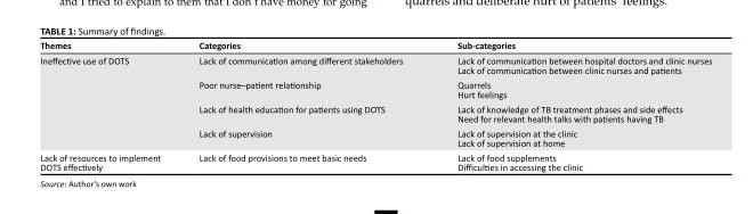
<table><thead><tr><td>Themes</td><td>Categories</td><td>Sub-categories</td></tr></thead><tbody><tr><td rowspan="4">Ineffective use of DOTS</td><td>Lack of communication among different stakeholders</td><td>Lack of communication between hospital doctors and clinic nurses Lack of communication between clinic nurses and patients</td></tr><tr><td>Poor nurse–patient relationship</td><td>Quarrels Hurt feelings</td></tr><tr><td>Lack of health education for patients using DOTS</td><td>Lack of knowledge of TB treatment phases and side effects Need for relevant health talks with patients having TB</td></tr><tr><td>Lack of supervision</td><td>Lack of supervision at the clinic Lack of supervision at home</td></tr><tr><td>Lack of resources to implement DOTS effectively</td><td>Lack of food provisions to meet basic needs</td><td>Lack of food supplements Difficulties in accessing the clinic</td></tr></tbody></table>